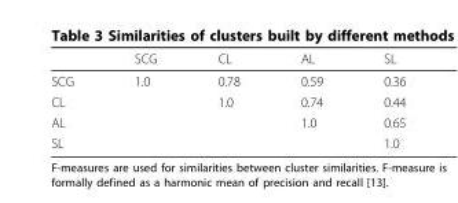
<table><thead><tr><td></td><td>SCG</td><td>CL</td><td>AL</td><td>SL</td></tr></thead><tbody><tr><td>SCG</td><td>1.0</td><td>0.78</td><td>0.59</td><td>0.36</td></tr><tr><td>CL</td><td></td><td>1.0</td><td>0.74</td><td>0.44</td></tr><tr><td>AL</td><td></td><td></td><td>1.0</td><td>0.65</td></tr><tr><td>SL</td><td></td><td></td><td></td><td>1.0</td></tr></tbody></table>